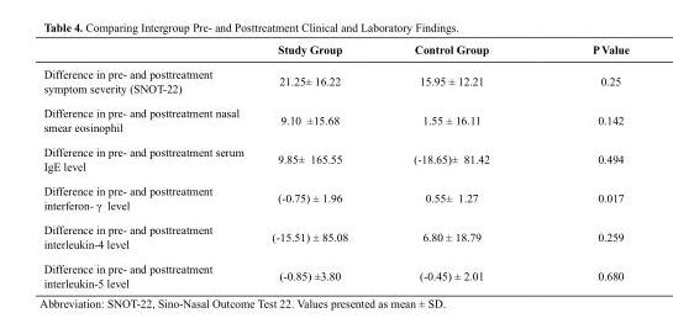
<table><thead><tr><td></td><td>Study Group</td><td>Control Group</td><td>P Value</td></tr></thead><tbody><tr><td>Difference in pre- and posttreatment symptom severity (SNOT-22)</td><td>21.25± 16.22</td><td>15.95 ± 12.21</td><td>0.25</td></tr><tr><td>Difference in pre- and posttreatment nasal smear eosinophil</td><td>9.10 ±15.68</td><td>1.55 ± 16.11</td><td>0.142</td></tr><tr><td>Difference in pre- and posttreatment serum IgE level</td><td>9.85± 165.55</td><td>(-18.65)± 81.42</td><td>0.494</td></tr><tr><td>Difference in pre- and posttreatment interferon- γ level</td><td>(-0.75) ± 1.96</td><td>0.55± 1.27</td><td>0.017</td></tr><tr><td>Difference in pre- and posttreatment interleukin-4 level</td><td>(-15.51) ± 85.08</td><td>6.80 ± 18.79</td><td>0.259</td></tr><tr><td>Difference in pre- and posttreatment interleukin-5 level</td><td>(-0.85) ±3.80</td><td>(-0.45) ± 2.01</td><td>0.680</td></tr></tbody></table>